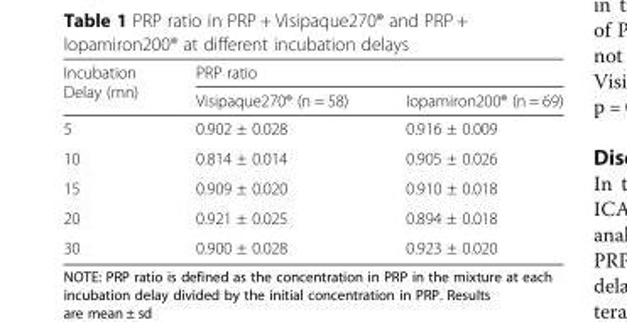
<table><thead><tr><td rowspan="2">Incubation Delay (mn)</td><td colspan="2">PRP ratio</td></tr><tr><td>Visipaque270® (n = 58)</td><td>Iopamiron200® (n = 69)</td></tr></thead><tbody><tr><td>5</td><td>0.902 ± 0.028</td><td>0.916 ± 0.009</td></tr><tr><td>10</td><td>0.814 ± 0.014</td><td>0.905 ± 0.026</td></tr><tr><td>15</td><td>0.909 ± 0.020</td><td>0.910 ± 0.018</td></tr><tr><td>20</td><td>0.921 ± 0.025</td><td>0.894 ± 0.018</td></tr><tr><td>30</td><td>0.900 ± 0.028</td><td>0.923 ± 0.020</td></tr></tbody></table>